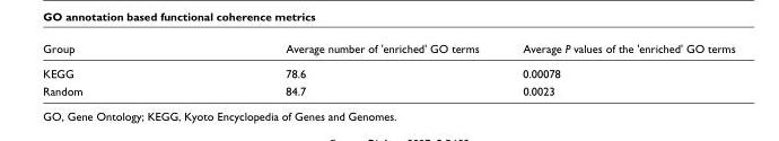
<table><thead><tr><td>Group</td><td>Average number of &#x27;enriched&#x27; GO terms</td><td>Average P values of the &#x27;enriched&#x27; GO terms</td></tr></thead><tbody><tr><td>KEGG</td><td>78.6</td><td>0.00078</td></tr><tr><td>Random</td><td>84.7</td><td>0.0023</td></tr></tbody></table>